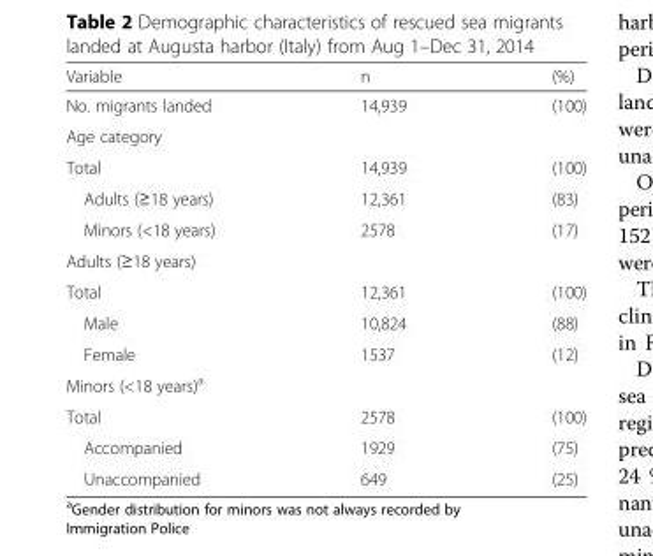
<table><thead><tr><td>Variable</td><td>n</td><td>(%)</td></tr></thead><tbody><tr><td>No. migrants landed</td><td>14,939</td><td>(100)</td></tr><tr><td colspan="3">Age category</td></tr><tr><td>Total</td><td>14,939</td><td>(100)</td></tr><tr><td>Adults (≥18 years)</td><td>12,361</td><td>(83)</td></tr><tr><td>Minors (&lt;18 years)</td><td>2578</td><td>(17)</td></tr><tr><td colspan="3">Adults (≥18 years)</td></tr><tr><td>Total</td><td>12,361</td><td>(100)</td></tr><tr><td>Male</td><td>10,824</td><td>(88)</td></tr><tr><td>Female</td><td>1537</td><td>(12)</td></tr><tr><td colspan="3">Minors (&lt;18 years)<sup>a</sup></td></tr><tr><td>Total</td><td>2578</td><td>(100)</td></tr><tr><td>Accompanied</td><td>1929</td><td>(75)</td></tr><tr><td>Unaccompanied</td><td>649</td><td>(25)</td></tr></tbody></table>